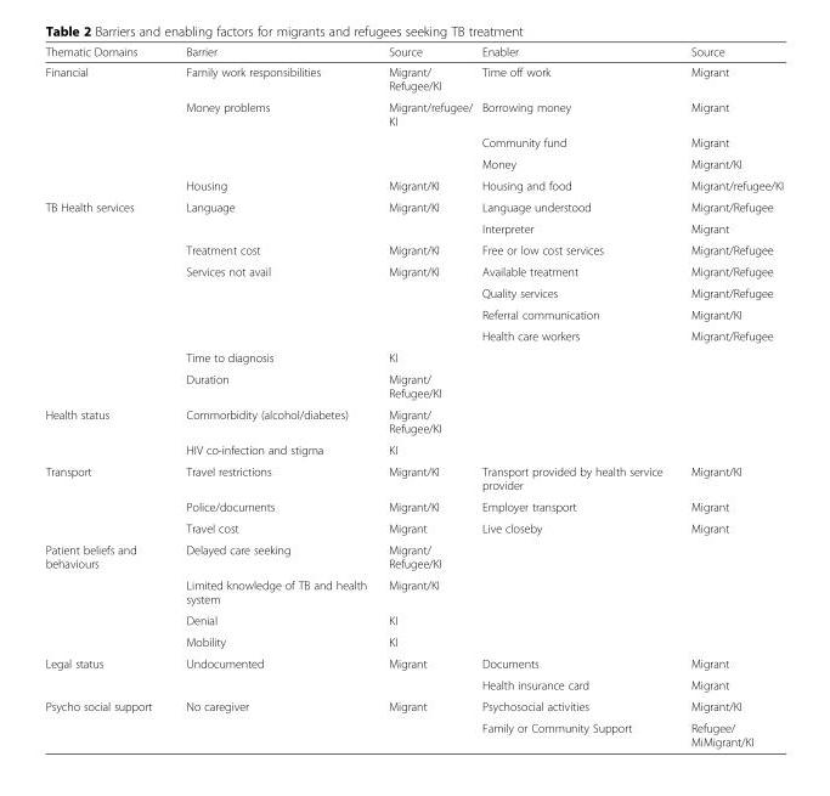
<table><thead><tr><td>Thematic Domains</td><td>Barrier</td><td>Source</td><td>Enabler</td><td>Source</td></tr></thead><tbody><tr><td rowspan="5">Financial</td><td>Family work responsibilities</td><td>Migrant/ Refugee/KI</td><td>Time off work</td><td>Migrant</td></tr><tr><td>Money problems</td><td>Migrant/refugee/ KI</td><td>Borrowing money</td><td>Migrant</td></tr><tr><td></td><td></td><td>Community fund</td><td>Migrant</td></tr><tr><td></td><td></td><td>Money</td><td>Migrant/KI</td></tr><tr><td>Housing</td><td>Migrant/KI</td><td>Housing and food</td><td>Migrant/refugee/KI</td></tr><tr><td rowspan="9">TB Health services</td><td>Language</td><td>Migrant/KI</td><td>Language understood</td><td>Migrant/Refugee</td></tr><tr><td></td><td></td><td>Interpreter</td><td>Migrant</td></tr><tr><td>Treatment cost</td><td>Migrant/KI</td><td>Free or low cost services</td><td>Migrant/Refugee</td></tr><tr><td>Services not avail</td><td>Migrant/KI</td><td>Available treatment</td><td>Migrant/Refugee</td></tr><tr><td></td><td></td><td>Quality services</td><td>Migrant/Refugee</td></tr><tr><td></td><td></td><td>Referral communication</td><td>Migrant/KI</td></tr><tr><td></td><td></td><td>Health care workers</td><td>Migrant/Refugee</td></tr><tr><td>Time to diagnosis</td><td>KI</td><td></td><td></td></tr><tr><td>Duration</td><td>Migrant/ Refugee/KI</td><td></td><td></td></tr><tr><td rowspan="2">Health status</td><td>Commorbidity (alcohol/diabetes)</td><td>Migrant/ Refugee/KI</td><td></td><td></td></tr><tr><td>HIV co-infection and stigma</td><td>KI</td><td></td><td></td></tr><tr><td rowspan="3">Transport</td><td>Travel restrictions</td><td>Migrant/KI</td><td>Transport provided by health service provider</td><td>Migrant/KI</td></tr><tr><td>Police/documents</td><td>Migrant/KI</td><td>Employer transport</td><td>Migrant</td></tr><tr><td>Travel cost</td><td>Migrant</td><td>Live closeby</td><td>Migrant</td></tr><tr><td rowspan="4">Patient beliefs and behaviours</td><td>Delayed care seeking</td><td>Migrant/ Refugee/KI</td><td></td><td></td></tr><tr><td>Limited knowledge of TB and health system</td><td>Migrant/KI</td><td></td><td></td></tr><tr><td>Denial</td><td>KI</td><td></td><td></td></tr><tr><td>Mobility</td><td>KI</td><td></td><td></td></tr><tr><td rowspan="2">Legal status</td><td>Undocumented</td><td>Migrant</td><td>Documents</td><td>Migrant</td></tr><tr><td></td><td></td><td>Health insurance card</td><td>Migrant</td></tr><tr><td rowspan="2">Psycho social support</td><td>No caregiver</td><td>Migrant</td><td>Psychosocial activities</td><td>Migrant/KI</td></tr><tr><td></td><td></td><td>Family or Community Support</td><td>Refugee/ MiMigrant/KI</td></tr></tbody></table>